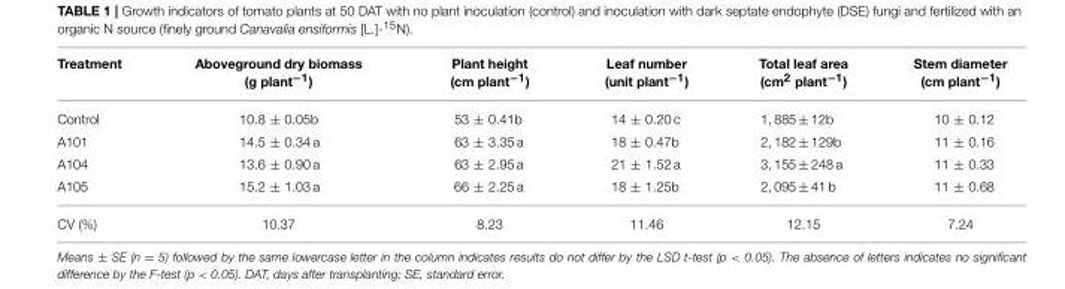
<table><thead><tr><td>Treatment</td><td>Aboveground dry biomass (g plant<sup>−1</sup>)</td><td>Plant height (cm plant<sup>−1</sup>)</td><td>Leaf number (unit plant<sup>−1</sup>)</td><td>Total leaf area (cm<sup>2</sup> plant<sup>−1</sup>)</td><td>Stem diameter (cm plant<sup>−1</sup>)</td></tr></thead><tbody><tr><td>Control</td><td>10.8 ± 0.05b</td><td>53 ± 0.41b</td><td>14 ± 0.20 c</td><td>1, 885 ± 12b</td><td>10 ± 0.12</td></tr><tr><td>A101</td><td>14.5 ± 0.34 a</td><td>63 ± 3.35 a</td><td>18 ± 0.47b</td><td>2, 182 ± 129b</td><td>11 ± 0.16</td></tr><tr><td>A104</td><td>13.6 ± 0.90 a</td><td>63 ± 2.95 a</td><td>21 ± 1.52 a</td><td>3, 155 ± 248 a</td><td>11 ± 0.33</td></tr><tr><td>A105</td><td>15.2 ± 1.03 a</td><td>66 ± 2.25 a</td><td>18 ± 1.25b</td><td>2, 095 ± 41 b</td><td>11 ± 0.68</td></tr><tr><td>CV (%)</td><td>10.37</td><td>8.23</td><td>11.46</td><td>12.15</td><td>7.24</td></tr></tbody></table>